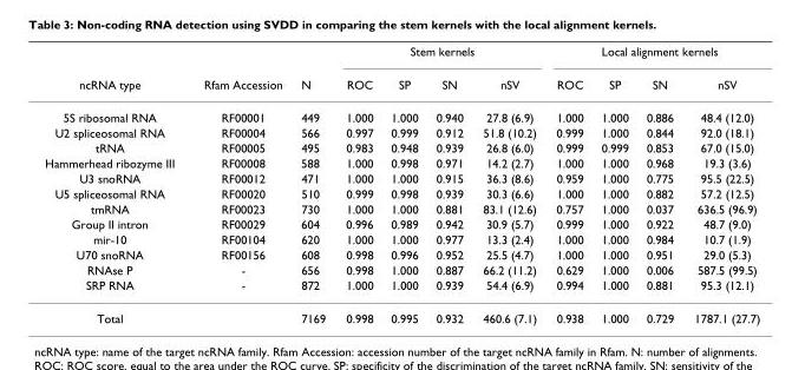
<table><thead><tr><td rowspan="2">ncRNA type</td><td rowspan="2">Rfam Accession</td><td rowspan="2">N</td><td colspan="4">Stem kernels</td><td colspan="4">Local alignment kernels</td></tr><tr><td>ROC</td><td>SP</td><td>SN</td><td>nSV</td><td>ROC</td><td>SP</td><td>SN</td><td>nSV</td></tr></thead><tbody><tr><td>5S ribosomal RNA</td><td>RF00001</td><td>449</td><td>1.000</td><td>1.000</td><td>0.940</td><td>27.8 (6.9)</td><td>1.000</td><td>1.000</td><td>0.886</td><td>48.4 (12.0)</td></tr><tr><td>U2 spliceosomal RNA</td><td>RF00004</td><td>566</td><td>0.997</td><td>0.999</td><td>0.912</td><td>51.8 (10.2)</td><td>0.999</td><td>1.000</td><td>0.844</td><td>92.0 (18.1)</td></tr><tr><td>tRNA</td><td>RF00005</td><td>495</td><td>0.983</td><td>0.948</td><td>0.939</td><td>26.8 (6.0)</td><td>0.999</td><td>0.999</td><td>0.853</td><td>67.0 (15.0)</td></tr><tr><td>Hammerhead ribozyme III</td><td>RF00008</td><td>588</td><td>1.000</td><td>0.998</td><td>0.971</td><td>14.2 (2.7)</td><td>1.000</td><td>1.000</td><td>0.968</td><td>19.3 (3.6)</td></tr><tr><td>U3 snoRNA</td><td>RF00012</td><td>471</td><td>1.000</td><td>1.000</td><td>0.915</td><td>36.3 (8.6)</td><td>0.959</td><td>1.000</td><td>0.775</td><td>95.5 (22.5)</td></tr><tr><td>U5 spliceosomal RNA</td><td>RF00020</td><td>510</td><td>0.999</td><td>0.998</td><td>0.939</td><td>30.3 (6.6)</td><td>1.000</td><td>1.000</td><td>0.882</td><td>57.2 (12.5)</td></tr><tr><td>tmRNA</td><td>RF00023</td><td>730</td><td>1.000</td><td>1.000</td><td>0.881</td><td>83.1 (12.6)</td><td>0.757</td><td>1.000</td><td>0.037</td><td>636.5 (96.9)</td></tr><tr><td>Group II intron</td><td>RF00029</td><td>604</td><td>0.996</td><td>0.989</td><td>0.942</td><td>30.9 (5.7)</td><td>0.999</td><td>1.000</td><td>0.922</td><td>48.7 (9.0)</td></tr><tr><td>mir-10</td><td>RF00104</td><td>620</td><td>1.000</td><td>1.000</td><td>0.977</td><td>13.3 (2.4)</td><td>1.000</td><td>1.000</td><td>0.984</td><td>10.7 (1.9)</td></tr><tr><td>U70 snoRNA</td><td>RF00156</td><td>608</td><td>0.998</td><td>0.996</td><td>0.952</td><td>25.5 (4.7)</td><td>1.000</td><td>1.000</td><td>0.951</td><td>29.0 (5.3)</td></tr><tr><td>RNAse P</td><td>-</td><td>656</td><td>0.998</td><td>1.000</td><td>0.887</td><td>66.2 (11.2)</td><td>0.629</td><td>1.000</td><td>0.006</td><td>587.5 (99.5)</td></tr><tr><td>SRP RNA</td><td>-</td><td>872</td><td>1.000</td><td>1.000</td><td>0.939</td><td>54.4 (6.9)</td><td>0.994</td><td>1.000</td><td>0.881</td><td>95.3 (12.1)</td></tr><tr><td>Total</td><td></td><td>7169</td><td>0.998</td><td>0.995</td><td>0.932</td><td>460.6 (7.1)</td><td>0.938</td><td>1.000</td><td>0.729</td><td>1787.1 (27.7)</td></tr></tbody></table>